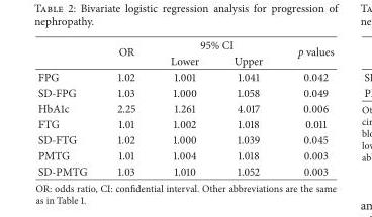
<table><thead><tr><td rowspan="2"></td><td rowspan="2">OR</td><td colspan="2">95% CI</td><td rowspan="2">p values</td></tr><tr><td>Lower</td><td>Upper</td></tr></thead><tbody><tr><td>FPG</td><td>1.02</td><td>1.001</td><td>1.041</td><td>0.042</td></tr><tr><td>SD-FPG</td><td>1.03</td><td>1.000</td><td>1.058</td><td>0.049</td></tr><tr><td>HbA1c</td><td>2.25</td><td>1.261</td><td>4.017</td><td>0.006</td></tr><tr><td>FTG</td><td>1.01</td><td>1.002</td><td>1.018</td><td>0.011</td></tr><tr><td>SD-FTG</td><td>1.02</td><td>1.000</td><td>1.039</td><td>0.045</td></tr><tr><td>PMTG</td><td>1.01</td><td>1.004</td><td>1.018</td><td>0.003</td></tr><tr><td>SD-PMTG</td><td>1.03</td><td>1.010</td><td>1.052</td><td>0.003</td></tr></tbody></table>